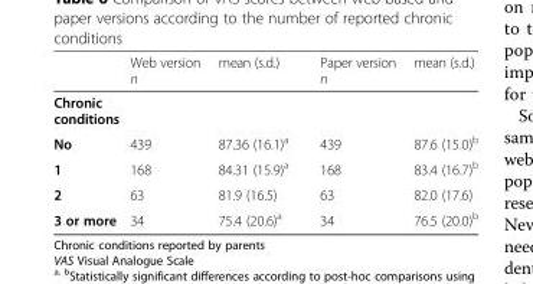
<table><thead><tr><td></td><td>Web version n</td><td>mean (s.d.)</td><td>Paper version n</td><td>mean (s.d.)</td></tr></thead><tbody><tr><td colspan="5">Chronic conditions</td></tr><tr><td>No</td><td>439</td><td>87.36 (16.1)<sup>a</sup></td><td>439</td><td>87.6 (15.0)<sup>b</sup></td></tr><tr><td>1</td><td>168</td><td>84.31 (15.9)<sup>a</sup></td><td>168</td><td>83.4 (16.7)<sup>b</sup></td></tr><tr><td>2</td><td>63</td><td>81.9 (16.5)</td><td>63</td><td>82.0 (17.6)</td></tr><tr><td>3 or more</td><td>34</td><td>75.4 (20.6)<sup>a</sup></td><td>34</td><td>76.5 (20.0)<sup>b</sup></td></tr></tbody></table>